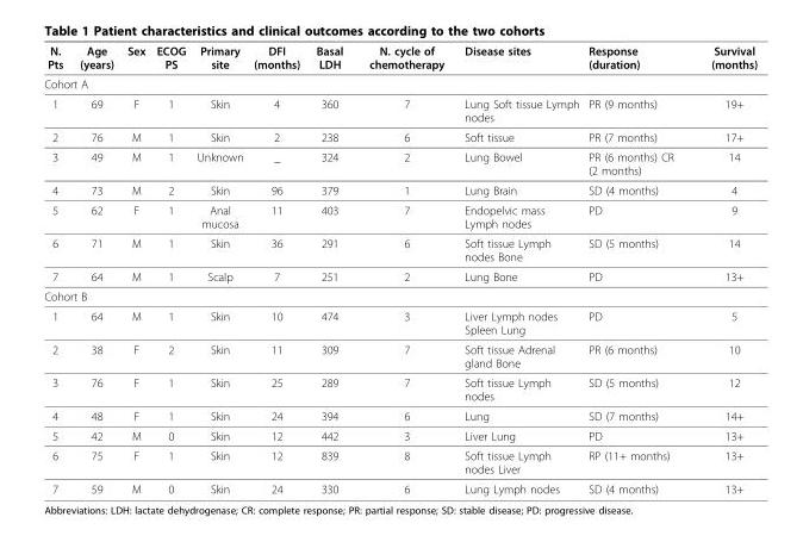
<table><thead><tr><td>N. Pts</td><td>Age (years)</td><td>Sex</td><td>ECOG PS</td><td>Primary site</td><td>DFI (months)</td><td>Basal LDH</td><td>N. cycle of chemotherapy</td><td>Disease sites</td><td>Response (duration)</td><td>Survival (months)</td></tr></thead><tbody><tr><td colspan="11">Cohort A</td></tr><tr><td>1</td><td>69</td><td>F</td><td>1</td><td>Skin</td><td>4</td><td>360</td><td>7</td><td>Lung Soft tissue Lymph nodes</td><td>PR (9 months)</td><td>19+</td></tr><tr><td>2</td><td>76</td><td>M</td><td>1</td><td>Skin</td><td>2</td><td>238</td><td>6</td><td>Soft tissue</td><td>PR (7 months)</td><td>17+</td></tr><tr><td>3</td><td>49</td><td>M</td><td>1</td><td>Unknown</td><td>_</td><td>324</td><td>2</td><td>Lung Bowel</td><td>PR (6 months) CR (2 months)</td><td>14</td></tr><tr><td>4</td><td>73</td><td>M</td><td>2</td><td>Skin</td><td>96</td><td>379</td><td>1</td><td>Lung Brain</td><td>SD (4 months)</td><td>4</td></tr><tr><td>5</td><td>62</td><td>F</td><td>1</td><td>Anal mucosa</td><td>11</td><td>403</td><td>7</td><td>Endopelvic mass Lymph nodes</td><td>PD</td><td>9</td></tr><tr><td>6</td><td>71</td><td>M</td><td>1</td><td>Skin</td><td>36</td><td>291</td><td>6</td><td>Soft tissue Lymph nodes Bone</td><td>SD (5 months)</td><td>14</td></tr><tr><td>7</td><td>64</td><td>M</td><td>1</td><td>Scalp</td><td>7</td><td>251</td><td>2</td><td>Lung Bone</td><td>PD</td><td>13+</td></tr><tr><td colspan="11">Cohort B</td></tr><tr><td>1</td><td>64</td><td>M</td><td>1</td><td>Skin</td><td>10</td><td>474</td><td>3</td><td>Liver Lymph nodes Spleen Lung</td><td>PD</td><td>5</td></tr><tr><td>2</td><td>38</td><td>F</td><td>2</td><td>Skin</td><td>11</td><td>309</td><td>7</td><td>Soft tissue Adrenal gland Bone</td><td>PR (6 months)</td><td>10</td></tr><tr><td>3</td><td>76</td><td>F</td><td>1</td><td>Skin</td><td>25</td><td>289</td><td>7</td><td>Soft tissue Lymph nodes</td><td>SD (5 months)</td><td>12</td></tr><tr><td>4</td><td>48</td><td>F</td><td>1</td><td>Skin</td><td>24</td><td>394</td><td>6</td><td>Lung</td><td>SD (7 months)</td><td>14+</td></tr><tr><td>5</td><td>42</td><td>M</td><td>0</td><td>Skin</td><td>12</td><td>442</td><td>3</td><td>Liver Lung</td><td>PD</td><td>13+</td></tr><tr><td>6</td><td>75</td><td>F</td><td>1</td><td>Skin</td><td>12</td><td>839</td><td>8</td><td>Soft tissue Lymph nodes Liver</td><td>RP (11+ months)</td><td>13+</td></tr><tr><td>7</td><td>59</td><td>M</td><td>0</td><td>Skin</td><td>24</td><td>330</td><td>6</td><td>Lung Lymph nodes</td><td>SD (4 months)</td><td>13+</td></tr></tbody></table>